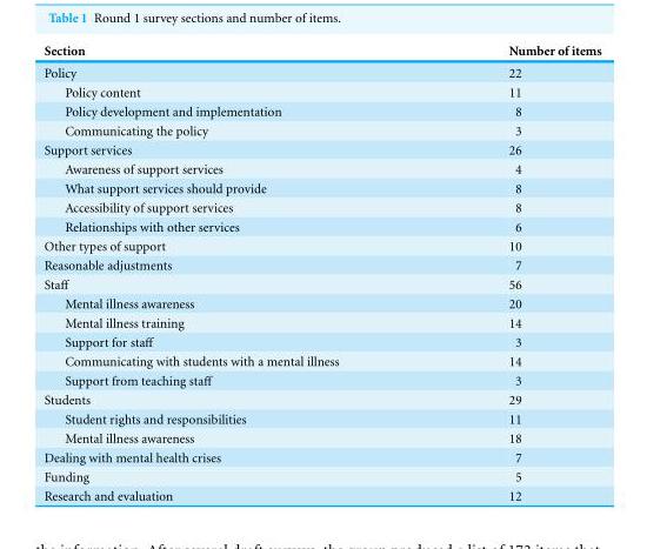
<table><thead><tr><td>Section</td><td>Number of items</td></tr></thead><tbody><tr><td>Policy</td><td>22</td></tr><tr><td>Policy content</td><td>11</td></tr><tr><td>Policy development and implementation</td><td>8</td></tr><tr><td>Communicating the policy</td><td>3</td></tr><tr><td>Support services</td><td>26</td></tr><tr><td>Awareness of support services</td><td>4</td></tr><tr><td>What support services should provide</td><td>8</td></tr><tr><td>Accessibility of support services</td><td>8</td></tr><tr><td>Relationships with other services</td><td>6</td></tr><tr><td>Other types of support</td><td>10</td></tr><tr><td>Reasonable adjustments</td><td>7</td></tr><tr><td>Staff</td><td>56</td></tr><tr><td>Mental illness awareness</td><td>20</td></tr><tr><td>Mental illness training</td><td>14</td></tr><tr><td>Support for staff</td><td>3</td></tr><tr><td>Communicating with students with a mental illness</td><td>14</td></tr><tr><td>Support from teaching staff</td><td>3</td></tr><tr><td>Students</td><td>29</td></tr><tr><td>Student rights and responsibilities</td><td>11</td></tr><tr><td>Mental illness awareness</td><td>18</td></tr><tr><td>Dealing with mental health crises</td><td>7</td></tr><tr><td>Funding</td><td>5</td></tr><tr><td>Research and evaluation</td><td>12</td></tr></tbody></table>